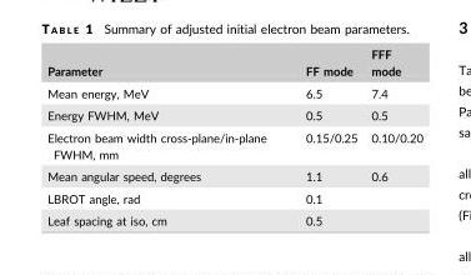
<table><thead><tr><td>Parameter</td><td>FF mode</td><td>FFF mode</td></tr></thead><tbody><tr><td>Mean energy, MeV</td><td>6.5</td><td>7.4</td></tr><tr><td>Energy FWHM, MeV</td><td>0.5</td><td>0.5</td></tr><tr><td>Electron beam width cross-plane/in-plane FWHM, mm</td><td>0.15/0.25</td><td>0.10/0.20</td></tr><tr><td>Mean angular speed, degrees</td><td>1.1</td><td>0.6</td></tr><tr><td>LBROT angle, rad</td><td colspan="2">0.1</td></tr><tr><td>Leaf spacing at iso, cm</td><td colspan="2">0.5</td></tr></tbody></table>